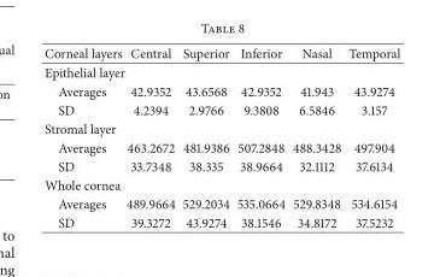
<table><thead><tr><td>Corneal layers</td><td>Central</td><td>Superior</td><td>Inferior</td><td>Nasal</td><td>Temporal</td></tr></thead><tbody><tr><td colspan="6">Epithelial layer</td></tr><tr><td>Averages</td><td>42.9352</td><td>43.6568</td><td>42.9352</td><td>41.943</td><td>43.9274</td></tr><tr><td>SD</td><td>4.2394</td><td>2.9766</td><td>9.3808</td><td>6.5846</td><td>3.157</td></tr><tr><td colspan="6">Stromal layer</td></tr><tr><td>Averages</td><td>463.2672</td><td>481.9386</td><td>507.2848</td><td>488.3428</td><td>497.904</td></tr><tr><td>SD</td><td>33.7348</td><td>38.335</td><td>38.9664</td><td>32.1112</td><td>37.6134</td></tr><tr><td colspan="6">Whole cornea</td></tr><tr><td>Averages</td><td>489.9664</td><td>529.2034</td><td>535.0664</td><td>529.8348</td><td>534.6154</td></tr><tr><td>SD</td><td>39.3272</td><td>43.9274</td><td>38.1546</td><td>34.8172</td><td>37.5232</td></tr></tbody></table>